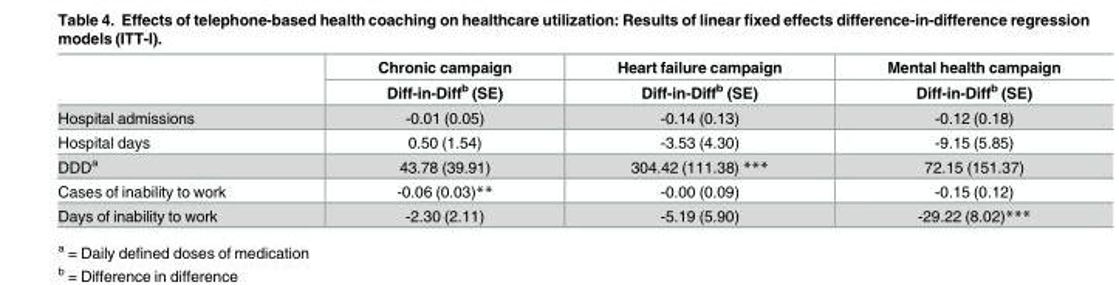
<table><thead><tr><td rowspan="2"></td><td rowspan="2">Chronic campaign Diff-in-Diff<sup>b</sup> (SE)</td><td rowspan="2">Heart failure campaign Diff-in-Diff<sup>b</sup> (SE)</td><td rowspan="2">Mental health campaign Diff-in-Diff<sup>b</sup> (SE)</td></tr><tr></tr></thead><tbody><tr><td>Hospital admissions</td><td>-0.01 (0.05)</td><td>-0.14 (0.13)</td><td>-0.12 (0.18)</td></tr><tr><td>Hospital days</td><td>0.50 (1.54)</td><td>-3.53 (4.30)</td><td>-9.15 (5.85)</td></tr><tr><td>DDD<sup>a</sup></td><td>43.78 (39.91)</td><td>304.42 (111.38) ***</td><td>72.15 (151.37)</td></tr><tr><td>Cases of inability to work</td><td>-0.06 (0.03)**</td><td>-0.00 (0.09)</td><td>-0.15 (0.12)</td></tr><tr><td>Days of inability to work</td><td>-2.30 (2.11)</td><td>-5.19 (5.90)</td><td>-29.22 (8.02)***</td></tr></tbody></table>